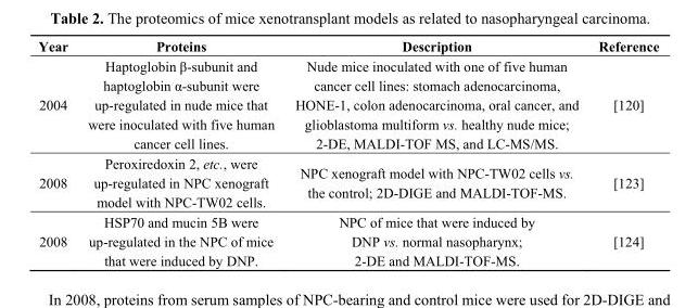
<table><thead><tr><td>Year</td><td>Proteins</td><td>Description</td><td>Reference</td></tr></thead><tbody><tr><td>2004</td><td>Haptoglobin β-subunit and haptoglobin α-subunit were up-regulated in nude mice that were inoculated with five human cancer cell lines.</td><td>Nude mice inoculated with one of five human cancer cell lines: stomach adenocarcinoma, HONE-1, colon adenocarcinoma, oral cancer, and glioblastoma multiform vs. healthy nude mice; 2-DE, MALDI-TOF MS, and LC-MS/MS.</td><td>[120]</td></tr><tr><td>2008</td><td>Peroxiredoxin 2, etc., were up-regulated in NPC xenograft model with NPC-TW02 cells.</td><td>NPC xenograft model with NPC-TW02 cells vs. the control; 2D-DIGE and MALDI-TOF-MS.</td><td>[123]</td></tr><tr><td>2008</td><td>HSP70 and mucin 5B were up-regulated in the NPC of mice that were induced by DNP.</td><td>NPC of mice that were induced by DNP vs. normal nasopharynx; 2-DE and MALDI-TOF-MS.</td><td>[124]</td></tr></tbody></table>